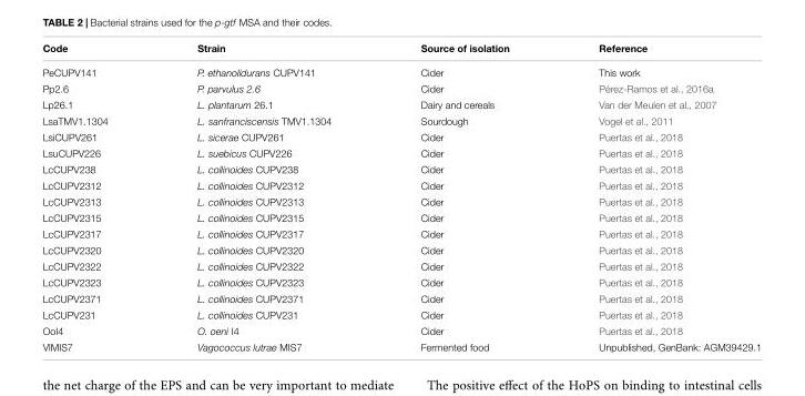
<table><thead><tr><td>Code</td><td>Strain</td><td>Source of isolation</td><td>Reference</td></tr></thead><tbody><tr><td>PeCUPV141</td><td>P. ethanolidurans CUPV141</td><td>Cider</td><td>This work</td></tr><tr><td>Pp2.6</td><td>P. parvulus 2.6</td><td>Cider</td><td>Pérez-Ramos et al., 2016a</td></tr><tr><td>Lp26.1</td><td>L. plantarum 26.1</td><td>Dairy and cereals</td><td>Van der Meulen et al., 2007</td></tr><tr><td>LsaTMV1.1304</td><td>L. sanfranciscensis TMV1.1304</td><td>Sourdough</td><td>Vogel et al., 2011</td></tr><tr><td>LsiCUPV261</td><td>L. sicerae CUPV261</td><td>Cider</td><td>Puertas et al., 2018</td></tr><tr><td>LsuCUPV226</td><td>L. suebicus CUPV226</td><td>Cider</td><td>Puertas et al., 2018</td></tr><tr><td>LcCUPV238</td><td>L. collinoides CUPV238</td><td>Cider</td><td>Puertas et al., 2018</td></tr><tr><td>LcCUPV2312</td><td>L. collinoides CUPV2312</td><td>Cider</td><td>Puertas et al., 2018</td></tr><tr><td>LcCUPV2313</td><td>L. collinoides CUPV2313</td><td>Cider</td><td>Puertas et al., 2018</td></tr><tr><td>LcCUPV2315</td><td>L. collinoides CUPV2315</td><td>Cider</td><td>Puertas et al., 2018</td></tr><tr><td>LcCUPV2317</td><td>L. collinoides CUPV2317</td><td>Cider</td><td>Puertas et al., 2018</td></tr><tr><td>LcCUPV2320</td><td>L. collinoides CUPV2320</td><td>Cider</td><td>Puertas et al., 2018</td></tr><tr><td>LcCUPV2322</td><td>L. collinoides CUPV2322</td><td>Cider</td><td>Puertas et al., 2018</td></tr><tr><td>LcCUPV2323</td><td>L. collinoides CUPV2323</td><td>Cider</td><td>Puertas et al., 2018</td></tr><tr><td>LcCUPV2371</td><td>L. collinoides CUPV2371</td><td>Cider</td><td>Puertas et al., 2018</td></tr><tr><td>LcCUPV231</td><td>L. collinoides CUPV231</td><td>Cider</td><td>Puertas et al., 2018</td></tr><tr><td>OoI4</td><td>O. oeni I4</td><td>Cider</td><td>Puertas et al., 2018</td></tr><tr><td>VlMIS7</td><td>Vagococcus lutrae MIS7</td><td>Fermented food</td><td>Unpublished, GenBank: AGM39429.1</td></tr></tbody></table>